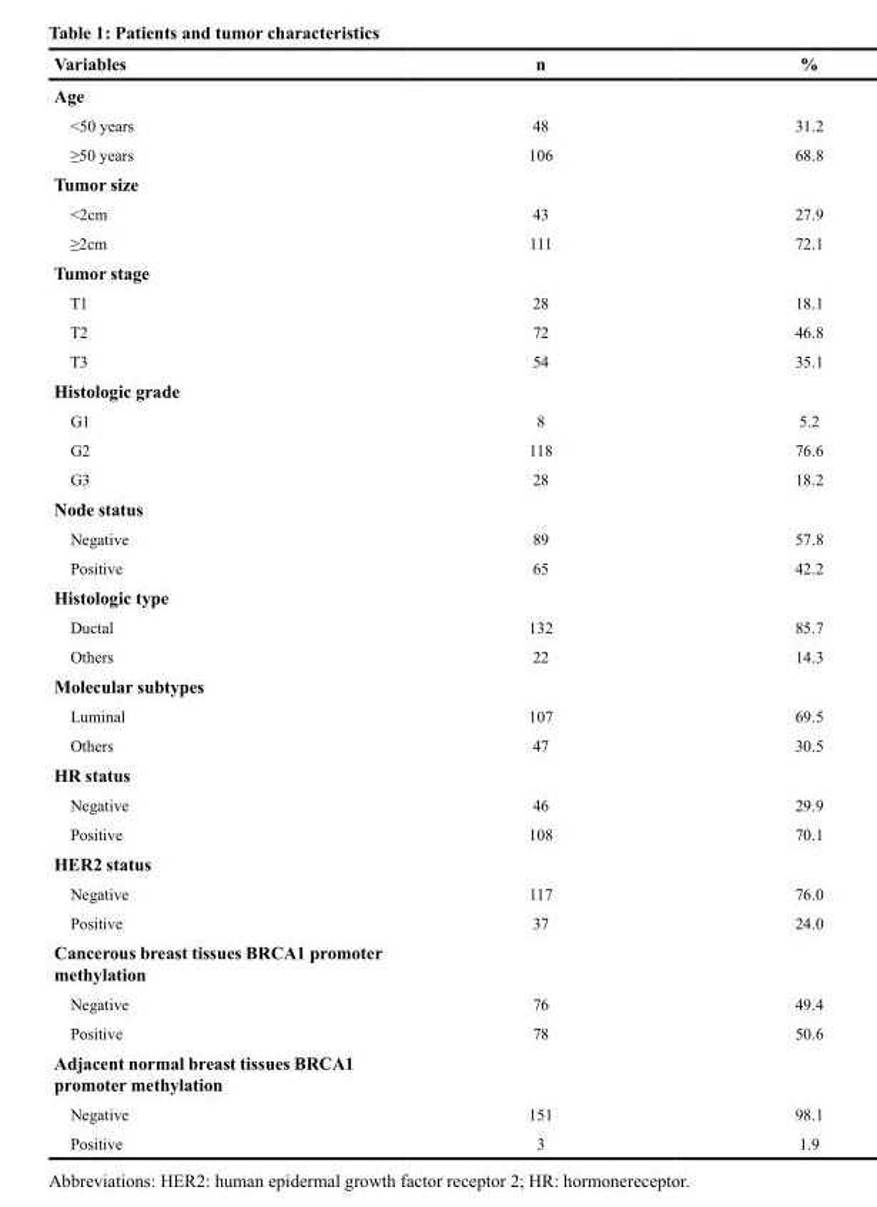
<table><thead><tr><td>Variables</td><td>n</td><td>%</td></tr></thead><tbody><tr><td colspan="3">Age</td></tr><tr><td>&lt;50 years</td><td>48</td><td>31.2</td></tr><tr><td>≥50 years</td><td>106</td><td>68.8</td></tr><tr><td colspan="3">Tumor size</td></tr><tr><td>&lt;2cm</td><td>43</td><td>27.9</td></tr><tr><td>≥2cm</td><td>111</td><td>72.1</td></tr><tr><td colspan="3">Tumor stage</td></tr><tr><td>T1</td><td>28</td><td>18.1</td></tr><tr><td>T2</td><td>72</td><td>46.8</td></tr><tr><td>T3</td><td>54</td><td>35.1</td></tr><tr><td colspan="3">Histologic grade</td></tr><tr><td>G1</td><td>8</td><td>5.2</td></tr><tr><td>G2</td><td>118</td><td>76.6</td></tr><tr><td>G3</td><td>28</td><td>18.2</td></tr><tr><td colspan="3">Node status</td></tr><tr><td>Negative</td><td>89</td><td>57.8</td></tr><tr><td>Positive</td><td>65</td><td>42.2</td></tr><tr><td colspan="3">Histologic type</td></tr><tr><td>Ductal</td><td>132</td><td>85.7</td></tr><tr><td>Others</td><td>22</td><td>14.3</td></tr><tr><td colspan="3">Molecular subtypes</td></tr><tr><td>Luminal</td><td>107</td><td>69.5</td></tr><tr><td>Others</td><td>47</td><td>30.5</td></tr><tr><td colspan="3">HR status</td></tr><tr><td>Negative</td><td>46</td><td>29.9</td></tr><tr><td>Positive</td><td>108</td><td>70.1</td></tr><tr><td colspan="3">HER2 status</td></tr><tr><td>Negative</td><td>117</td><td>76.0</td></tr><tr><td>Positive</td><td>37</td><td>24.0</td></tr><tr><td colspan="3">Cancerous breast tissues BRCA1 promoter methylation</td></tr><tr><td>Negative</td><td>76</td><td>49.4</td></tr><tr><td>Positive</td><td>78</td><td>50.6</td></tr><tr><td colspan="3">Adjacent normal breast tissues BRCA1 promoter methylation</td></tr><tr><td>Negative</td><td>151</td><td>98.1</td></tr><tr><td>Positive</td><td>3</td><td>1.9</td></tr></tbody></table>